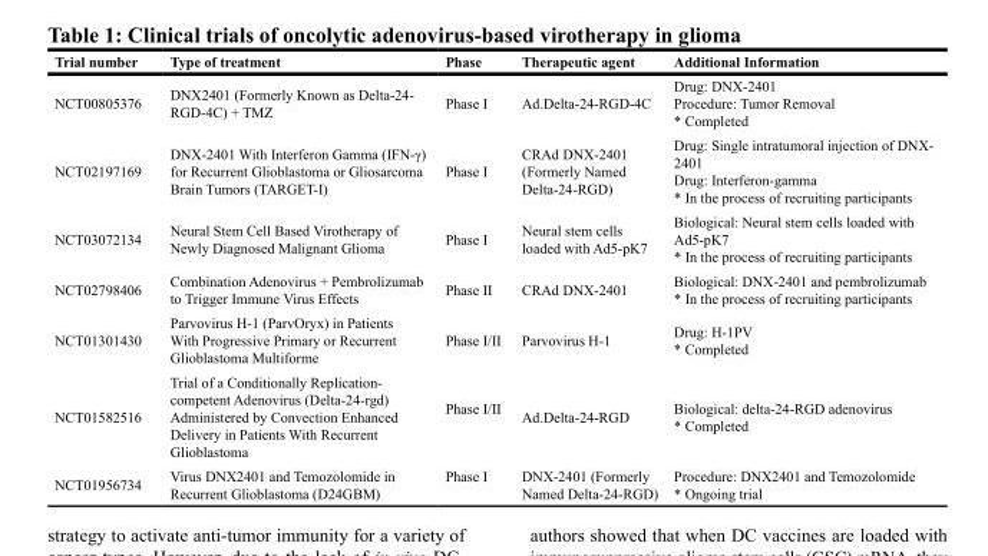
<table><thead><tr><td>Trial number</td><td>Type of treatment</td><td>Phase</td><td>Therapeutic agent</td><td>Additional Information</td></tr></thead><tbody><tr><td rowspan="3">NCT00805376</td><td rowspan="3">DNX2401 (Formerly Known as Delta-24- RGD-4C) + TMZ</td><td rowspan="3">Phase I</td><td rowspan="3">Ad.Delta-24-RGD-4C</td><td>Drug: DNX-2401</td></tr><tr><td>Procedure: Tumor Removal</td></tr><tr><td>* Completed</td></tr><tr><td rowspan="3">NCT02197169</td><td rowspan="3">DNX-2401 With Interferon Gamma (IFN-γ) for Recurrent Glioblastoma or Gliosarcoma Brain Tumors (TARGET-I)</td><td rowspan="3">Phase I</td><td rowspan="3">CRAd DNX-2401 (Formerly Named Delta-24-RGD)</td><td>Drug: Single intratumoral injection of DNX- 2401</td></tr><tr><td>Drug: Interferon-gamma</td></tr><tr><td>* In the process of recruiting participants</td></tr><tr><td rowspan="2">NCT03072134</td><td rowspan="2">Neural Stem Cell Based Virotherapy of Newly Diagnosed Malignant Glioma</td><td rowspan="2">Phase I</td><td rowspan="2">Neural stem cells loaded with Ad5-pK7</td><td>Biological: Neural stem cells loaded with Ad5-pK7</td></tr><tr><td>* In the process of recruiting participants</td></tr><tr><td rowspan="2">NCT02798406</td><td rowspan="2">Combination Adenovirus + Pembrolizumab to Trigger Immune Virus Effects</td><td rowspan="2">Phase II</td><td rowspan="2">CRAd DNX-2401</td><td>Biological: DNX-2401 and pembrolizumab</td></tr><tr><td>* In the process of recruiting participants</td></tr><tr><td rowspan="2">NCT01301430</td><td rowspan="2">Parvovirus H-1 (ParvOryx) in Patients With Progressive Primary or Recurrent Glioblastoma Multiforme</td><td rowspan="2">Phase I/II</td><td rowspan="2">Parvovirus H-1</td><td>Drug: H-1PV</td></tr><tr><td>* Completed</td></tr><tr><td rowspan="2">NCT01582516</td><td rowspan="2">Trial of a Conditionally Replication- competent Adenovirus (Delta-24-rgd) Administered by Convection Enhanced Delivery in Patients With Recurrent Glioblastoma</td><td rowspan="2">Phase I/II</td><td rowspan="2">Ad.Delta-24-RGD</td><td>Biological: delta-24-RGD adenovirus</td></tr><tr><td>* Completed</td></tr><tr><td rowspan="2">NCT01956734</td><td rowspan="2">Virus DNX2401 and Temozolomide in Recurrent Glioblastoma (D24GBM)</td><td rowspan="2">Phase I</td><td rowspan="2">DNX-2401 (Formerly Named Delta-24-RGD)</td><td>Procedure: DNX2401 and Temozolomide</td></tr><tr><td>* Ongoing trial</td></tr></tbody></table>